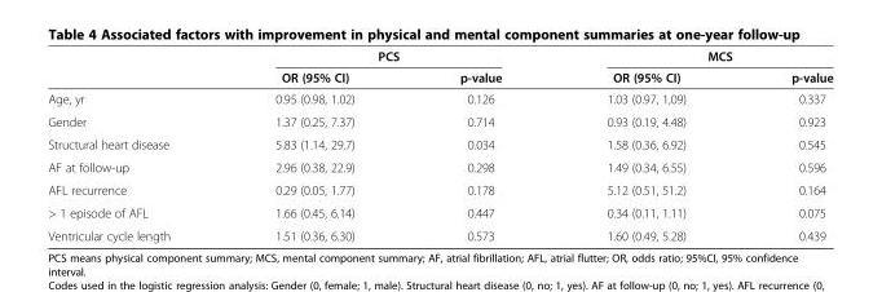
<table><thead><tr><td rowspan="2"></td><td colspan="2">PCS</td><td colspan="2">MCS</td></tr><tr><td>OR (95% CI)</td><td>p-value</td><td>OR (95% CI)</td><td>p-value</td></tr></thead><tbody><tr><td>Age, yr</td><td>0.95 (0.98, 1.02)</td><td>0.126</td><td>1.03 (0.97, 1,09)</td><td>0.337</td></tr><tr><td>Gender</td><td>1.37 (0.25, 7.37)</td><td>0.714</td><td>0.93 (0.19, 4.48)</td><td>0.923</td></tr><tr><td>Structural heart disease</td><td>5.83 (1.14, 29.7)</td><td>0.034</td><td>1.58 (0.36, 6.92)</td><td>0.545</td></tr><tr><td>AF at follow-up</td><td>2.96 (0.38, 22.9)</td><td>0.298</td><td>1.49 (0.34, 6.55)</td><td>0.596</td></tr><tr><td>AFL recurrence</td><td>0.29 (0.05, 1.77)</td><td>0.178</td><td>5.12 (0.51, 51.2)</td><td>0.164</td></tr><tr><td>&gt; 1 episode of AFL</td><td>1.66 (0.45, 6.14)</td><td>0.447</td><td>0.34 (0.11, 1.11)</td><td>0.075</td></tr><tr><td>Ventricular cycle length</td><td>1.51 (0.36, 6.30)</td><td>0.573</td><td>1.60 (0.49, 5.28)</td><td>0.439</td></tr></tbody></table>